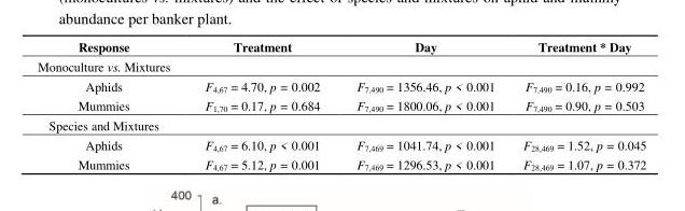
<table><thead><tr><td>Response</td><td>Treatment</td><td>Day</td><td>Treatment * Day</td></tr></thead><tbody><tr><td colspan="4">Monoculture vs. Mixtures</td></tr><tr><td>Aphids</td><td>F<sub>4,67</sub> = 4.70, p = 0.002</td><td>F<sub>7,490</sub> = 1356.46, p &lt; 0.001</td><td>F<sub>7,490</sub> = 0.16, p = 0.992</td></tr><tr><td>Mummies</td><td>F<sub>1,70</sub> = 0.17, p = 0.684</td><td>F<sub>7,490</sub> = 1800.06, p &lt; 0.001</td><td>F<sub>7,490</sub> = 0.90, p = 0.503</td></tr><tr><td colspan="4">Species and Mixtures</td></tr><tr><td>Aphids</td><td>F<sub>4,67</sub> = 6.10, p &lt; 0.001</td><td>F<sub>7,469</sub> = 1041.74, p &lt; 0.001</td><td>F<sub>28,469</sub> = 1.52, p = 0.045</td></tr><tr><td>Mummies</td><td>F<sub>4,67</sub> = 5.12, p = 0.001</td><td>F<sub>7,469</sub> = 1296.53, p &lt; 0.001</td><td>F<sub>28,469</sub> = 1.07, p = 0.372</td></tr></tbody></table>